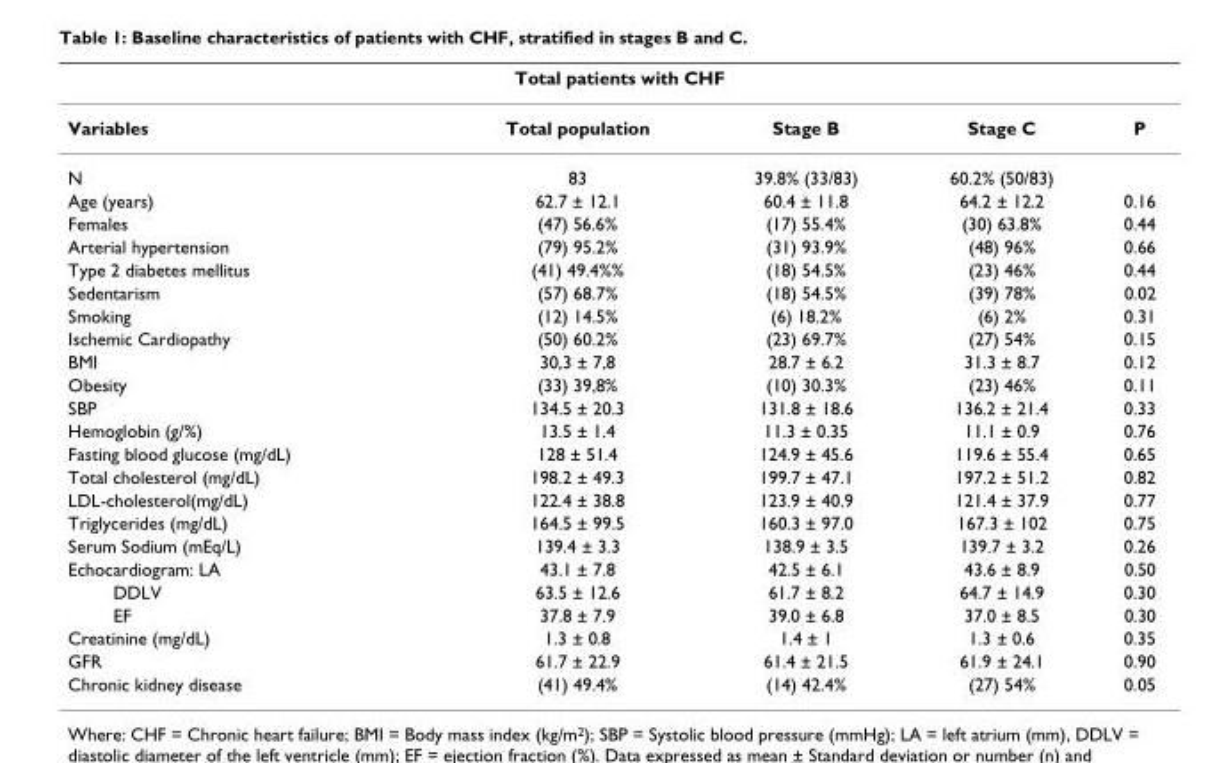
<table><thead><tr><td colspan="5">Total patients with CHF</td></tr><tr><td>Variables</td><td>Total population</td><td>Stage B</td><td>Stage C</td><td>P</td></tr></thead><tbody><tr><td>N</td><td>83</td><td>39.8% (33/83)</td><td>60.2% (50/83)</td><td></td></tr><tr><td>Age (years)</td><td>62.7 ± 12.1</td><td>60.4 ± 11.8</td><td>64.2 ± 12.2</td><td>0.16</td></tr><tr><td>Females</td><td>(47) 56.6%</td><td>(17) 55.4%</td><td>(30) 63.8%</td><td>0.44</td></tr><tr><td>Arterial hypertension</td><td>(79) 95.2%</td><td>(31) 93.9%</td><td>(48) 96%</td><td>0.66</td></tr><tr><td>Type 2 diabetes mellitus</td><td>(41) 49.4%%</td><td>(18) 54.5%</td><td>(23) 46%</td><td>0.44</td></tr><tr><td>Sedentarism</td><td>(57) 68.7%</td><td>(18) 54.5%</td><td>(39) 78%</td><td>0.02</td></tr><tr><td>Smoking</td><td>(12) 14.5%</td><td>(6) 18.2%</td><td>(6) 2%</td><td>0.31</td></tr><tr><td>Ischemic Cardiopathy</td><td>(50) 60.2%</td><td>(23) 69.7%</td><td>(27) 54%</td><td>0.15</td></tr><tr><td>BMI</td><td>30,3 ± 7,8</td><td>28.7 ± 6.2</td><td>31.3 ± 8.7</td><td>0.12</td></tr><tr><td>Obesity</td><td>(33) 39,8%</td><td>(10) 30.3%</td><td>(23) 46%</td><td>0.11</td></tr><tr><td>SBP</td><td>134.5 ± 20.3</td><td>131.8 ± 18.6</td><td>136.2 ± 21.4</td><td>0.33</td></tr><tr><td>Hemoglobin (g/%)</td><td>13.5 ± 1.4</td><td>11.3 ± 0.35</td><td>11.1 ± 0.9</td><td>0.76</td></tr><tr><td>Fasting blood glucose (mg/dL)</td><td>128 ± 51.4</td><td>124.9 ± 45.6</td><td>119.6 ± 55.4</td><td>0.65</td></tr><tr><td>Total cholesterol (mg/dL)</td><td>198.2 ± 49.3</td><td>199.7 ± 47.1</td><td>197.2 ± 51.2</td><td>0.82</td></tr><tr><td>LDL-cholesterol(mg/dL)</td><td>122.4 ± 38.8</td><td>123.9 ± 40.9</td><td>121.4 ± 37.9</td><td>0.77</td></tr><tr><td>Triglycerides (mg/dL)</td><td>164.5 ± 99.5</td><td>160.3 ± 97.0</td><td>167.3 ± 102</td><td>0.75</td></tr><tr><td>Serum Sodium (mEq/L)</td><td>139.4 ± 3.3</td><td>138.9 ± 3.5</td><td>139.7 ± 3.2</td><td>0.26</td></tr><tr><td>Echocardiogram: LA</td><td>43.1 ± 7.8</td><td>42.5 ± 6.1</td><td>43.6 ± 8.9</td><td>0.50</td></tr><tr><td>DDLV</td><td>63.5 ± 12.6</td><td>61.7 ± 8.2</td><td>64.7 ± 14.9</td><td>0.30</td></tr><tr><td>EF</td><td>37.8 ± 7.9</td><td>39.0 ± 6.8</td><td>37.0 ± 8.5</td><td>0.30</td></tr><tr><td>Creatinine (mg/dL)</td><td>1.3 ± 0.8</td><td>1.4 ± 1</td><td>1.3 ± 0.6</td><td>0.35</td></tr><tr><td>GFR</td><td>61.7 ± 22.9</td><td>61.4 ± 21.5</td><td>61.9 ± 24.1</td><td>0.90</td></tr><tr><td>Chronic kidney disease</td><td>(41) 49.4%</td><td>(14) 42.4%</td><td>(27) 54%</td><td>0.05</td></tr></tbody></table>